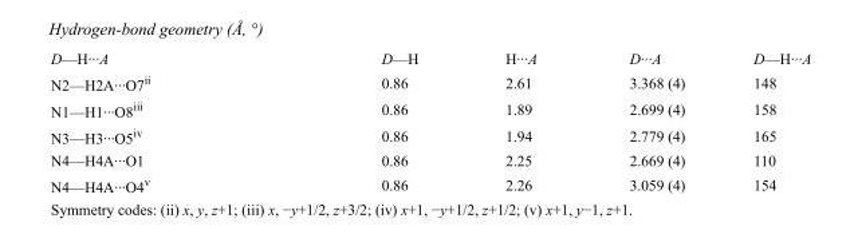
<table><tbody><tr><td>D—H···A</td><td>D—H</td><td>H···A</td><td>D···A</td><td>D—H···A</td></tr><tr><td>N2—H2A···O7<sup>ii</sup></td><td>0.86</td><td>2.61</td><td>3.368 (4)</td><td>148</td></tr><tr><td>N1—H1···O8<sup>iii</sup></td><td>0.86</td><td>1.89</td><td>2.699 (4)</td><td>158</td></tr><tr><td>N3—H3···O5<sup>iv</sup></td><td>0.86</td><td>1.94</td><td>2.779 (4)</td><td>165</td></tr><tr><td>N4—H4A···O1</td><td>0.86</td><td>2.25</td><td>2.669 (4)</td><td>110</td></tr><tr><td>N4—H4A···O4<sup>v</sup></td><td>0.86</td><td>2.26</td><td>3.059 (4)</td><td>154</td></tr></tbody></table>